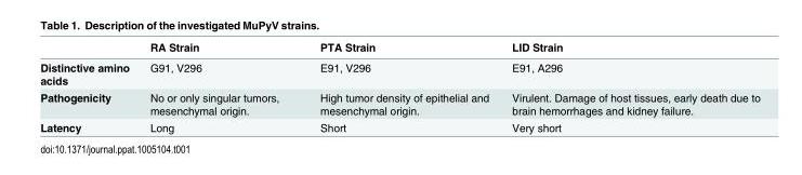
<table><thead><tr><td></td><td>RA Strain</td><td>PTA Strain</td><td>LID Strain</td></tr></thead><tbody><tr><td>Distinctive amino acids</td><td>G91, V296</td><td>E91, V296</td><td>E91, A296</td></tr><tr><td>Pathogenicity</td><td>No or only singular tumors, mesenchymal origin.</td><td>High tumor density of epithelial and mesenchymal origin.</td><td>Virulent. Damage of host tissues, early death due to brain hemorrhages and kidney failure.</td></tr><tr><td>Latency</td><td>Long</td><td>Short</td><td>Very short</td></tr></tbody></table>